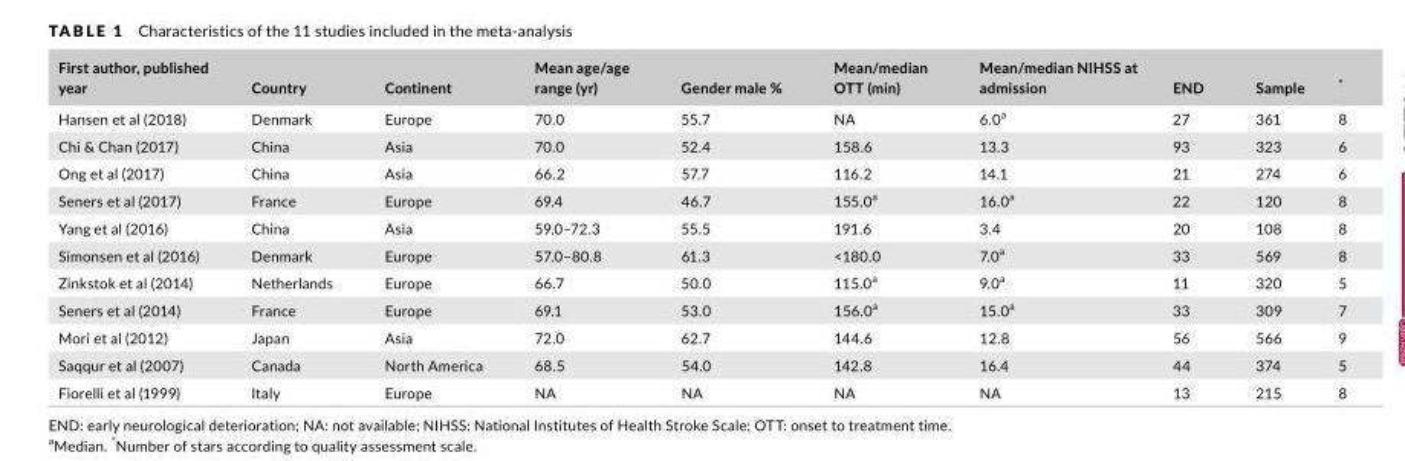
<table><thead><tr><td>First author, published year</td><td>Country</td><td>Continent</td><td>Mean age/age range (yr)</td><td>Gender male %</td><td>Mean/median OTT (min)</td><td>Mean/median NIHSS at admission</td><td>END</td><td>Sample</td><td>*</td></tr></thead><tbody><tr><td>Hansen et al (2018)</td><td>Denmark</td><td>Europe</td><td>70.0</td><td>55.7</td><td>NA</td><td>6.0<sup>a</sup></td><td>27</td><td>361</td><td>8</td></tr><tr><td>Chi &amp; Chan (2017)</td><td>China</td><td>Asia</td><td>70.0</td><td>52.4</td><td>158.6</td><td>13.3</td><td>93</td><td>323</td><td>6</td></tr><tr><td>Ong et al (2017)</td><td>China</td><td>Asia</td><td>66.2</td><td>57.7</td><td>116.2</td><td>14.1</td><td>21</td><td>274</td><td>6</td></tr><tr><td>Seners et al (2017)</td><td>France</td><td>Europe</td><td>69.4</td><td>46.7</td><td>155.0<sup>a</sup></td><td>16.0<sup>a</sup></td><td>22</td><td>120</td><td>8</td></tr><tr><td>Yang et al (2016)</td><td>China</td><td>Asia</td><td>59.0–72.3</td><td>55.5</td><td>191.6</td><td>3.4</td><td>20</td><td>108</td><td>8</td></tr><tr><td>Simonsen et al (2016)</td><td>Denmark</td><td>Europe</td><td>57.0–80.8</td><td>61.3</td><td>&lt;180.0</td><td>7.0<sup>a</sup></td><td>33</td><td>569</td><td>8</td></tr><tr><td>Zinkstok et al (2014)</td><td>Netherlands</td><td>Europe</td><td>66.7</td><td>50.0</td><td>115.0<sup>a</sup></td><td>9.0<sup>a</sup></td><td>11</td><td>320</td><td>5</td></tr><tr><td>Seners et al (2014)</td><td>France</td><td>Europe</td><td>69.1</td><td>53.0</td><td>156.0<sup>a</sup></td><td>15.0<sup>a</sup></td><td>33</td><td>309</td><td>7</td></tr><tr><td>Mori et al (2012)</td><td>Japan</td><td>Asia</td><td>72.0</td><td>62.7</td><td>144.6</td><td>12.8</td><td>56</td><td>566</td><td>9</td></tr><tr><td>Saqqur et al (2007)</td><td>Canada</td><td>North America</td><td>68.5</td><td>54.0</td><td>142.8</td><td>16.4</td><td>44</td><td>374</td><td>5</td></tr><tr><td>Fiorelli et al (1999)</td><td>Italy</td><td>Europe</td><td>NA</td><td>NA</td><td>NA</td><td>NA</td><td>13</td><td>215</td><td>8</td></tr></tbody></table>